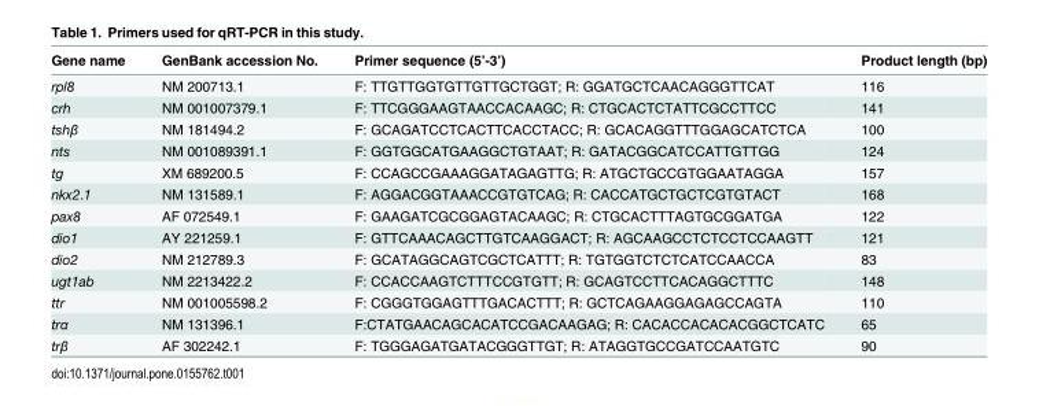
<table><thead><tr><td>Gene name</td><td>GenBank accession No.</td><td>Primer sequence (5’-3’)</td><td>Product length (bp)</td></tr></thead><tbody><tr><td>rpl8</td><td>NM 200713.1</td><td>F: TTGTTGGTGTTGTTGCTGGT; R: GGATGCTCAACAGGGTTCAT</td><td>116</td></tr><tr><td>crh</td><td>NM 001007379.1</td><td>F: TTCGGGAAGTAACCACAAGC; R: CTGCACTCTATTCGCCTTCC</td><td>141</td></tr><tr><td>tshβ</td><td>NM 181494.2</td><td>F: GCAGATCCTCACTTCACCTACC; R: GCACAGGTTTGGAGCATCTCA</td><td>100</td></tr><tr><td>nts</td><td>NM 001089391.1</td><td>F: GGTGGCATGAAGGCTGTAAT; R: GATACGGCATCCATTGTTGG</td><td>124</td></tr><tr><td>tg</td><td>XM 689200.5</td><td>F: CCAGCCGAAAGGATAGAGTTG; R: ATGCTGCCGTGGAATAGGA</td><td>157</td></tr><tr><td>nkx2.1</td><td>NM 131589.1</td><td>F: AGGACGGTAAACCGTGTCAG; R: CACCATGCTGCTCGTGTACT</td><td>168</td></tr><tr><td>pax8</td><td>AF 072549.1</td><td>F: GAAGATCGCGGAGTACAAGC; R: CTGCACTTTAGTGCGGATGA</td><td>122</td></tr><tr><td>dio1</td><td>AY 221259.1</td><td>F: GTTCAAACAGCTTGTCAAGGACT; R: AGCAAGCCTCTCCTCCAAGTT</td><td>121</td></tr><tr><td>dio2</td><td>NM 212789.3</td><td>F: GCATAGGCAGTCGCTCATTT; R: TGTGGTCTCTCATCCAACCA</td><td>83</td></tr><tr><td>ugt1ab</td><td>NM 2213422.2</td><td>F: CCACCAAGTCTTTCCGTGTT; R: GCAGTCCTTCACAGGCTTTC</td><td>148</td></tr><tr><td>ttr</td><td>NM 001005598.2</td><td>F: CGGGTGGAGTTTGACACTTT; R: GCTCAGAAGGAGAGCCAGTA</td><td>110</td></tr><tr><td>trα</td><td>NM 131396.1</td><td>F:CTATGAACAGCACATCCGACAAGAG; R: CACACCACACACGGCTCATC</td><td>65</td></tr><tr><td>trβ</td><td>AF 302242.1</td><td>F: TGGGAGATGATACGGGTTGT; R: ATAGGTGCCGATCCAATGTC</td><td>90</td></tr></tbody></table>